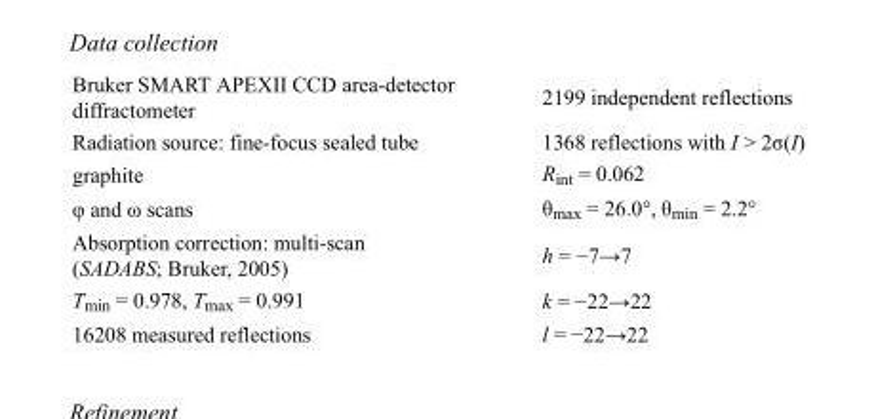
<table><tbody><tr><td>Bruker SMART APEXII CCD area-detector diffractometer</td><td>2199 independent reflections</td></tr><tr><td>Radiation source: fine-focus sealed tube</td><td>1368 reflections with I &gt; 2σ(I)</td></tr><tr><td>graphite</td><td>R<sub>int</sub> = 0.062</td></tr><tr><td>φ and ω scans</td><td>θ<sub>max</sub> = 26.0°, θ<sub>min</sub> = 2.2°</td></tr><tr><td>Absorption correction: multi-scan (SADABS; Bruker, 2005)</td><td>h = −7→7</td></tr><tr><td>T<sub>min</sub> = 0.978, T<sub>max</sub> = 0.991</td><td>k = −22→22</td></tr><tr><td>16208 measured reflections</td><td>l = −22→22</td></tr></tbody></table>